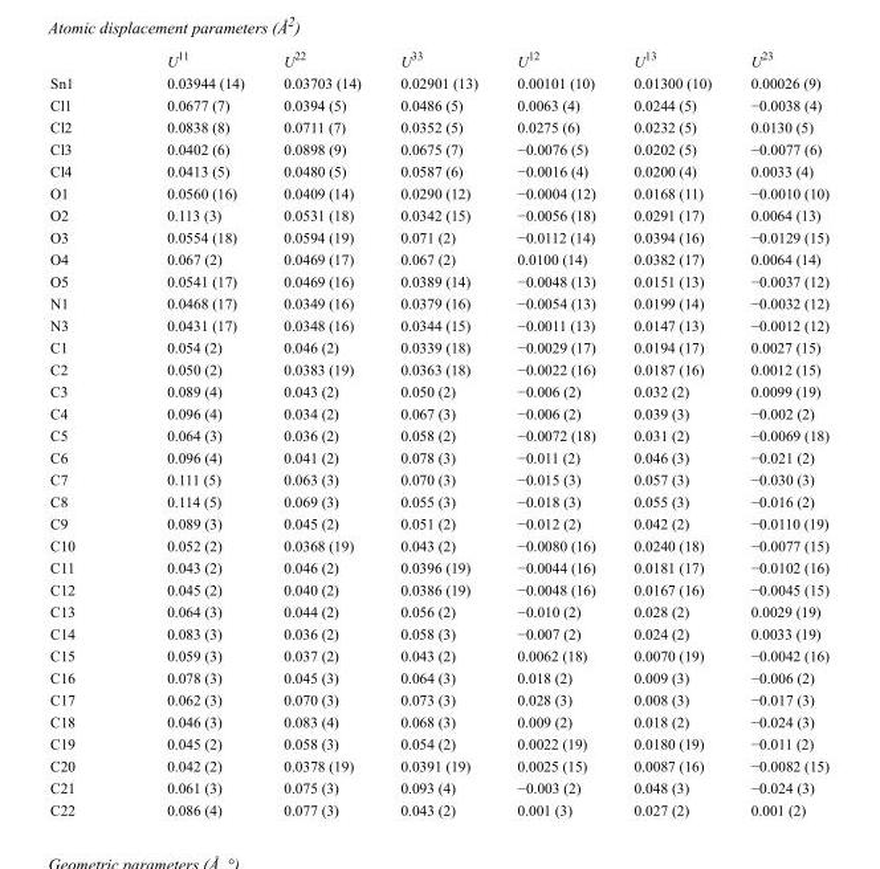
<table><thead><tr><td></td><td>U<sup>11</sup></td><td>U<sup>22</sup></td><td>U<sup>33</sup></td><td>U<sup>12</sup></td><td>U<sup>13</sup></td><td>U<sup>23</sup></td></tr></thead><tbody><tr><td>Sn1</td><td>0.03944 (14)</td><td>0.03703 (14)</td><td>0.02901 (13)</td><td>0.00101 (10)</td><td>0.01300 (10)</td><td>0.00026 (9)</td></tr><tr><td>Cl1</td><td>0.0677 (7)</td><td>0.0394 (5)</td><td>0.0486 (5)</td><td>0.0063 (4)</td><td>0.0244 (5)</td><td>−0.0038 (4)</td></tr><tr><td>Cl2</td><td>0.0838 (8)</td><td>0.0711 (7)</td><td>0.0352 (5)</td><td>0.0275 (6)</td><td>0.0232 (5)</td><td>0.0130 (5)</td></tr><tr><td>Cl3</td><td>0.0402 (6)</td><td>0.0898 (9)</td><td>0.0675 (7)</td><td>−0.0076 (5)</td><td>0.0202 (5)</td><td>−0.0077 (6)</td></tr><tr><td>Cl4</td><td>0.0413 (5)</td><td>0.0480 (5)</td><td>0.0587 (6)</td><td>−0.0016 (4)</td><td>0.0200 (4)</td><td>0.0033 (4)</td></tr><tr><td>O1</td><td>0.0560 (16)</td><td>0.0409 (14)</td><td>0.0290 (12)</td><td>−0.0004 (12)</td><td>0.0168 (11)</td><td>−0.0010 (10)</td></tr><tr><td>O2</td><td>0.113 (3)</td><td>0.0531 (18)</td><td>0.0342 (15)</td><td>−0.0056 (18)</td><td>0.0291 (17)</td><td>0.0064 (13)</td></tr><tr><td>O3</td><td>0.0554 (18)</td><td>0.0594 (19)</td><td>0.071 (2)</td><td>−0.0112 (14)</td><td>0.0394 (16)</td><td>−0.0129 (15)</td></tr><tr><td>O4</td><td>0.067 (2)</td><td>0.0469 (17)</td><td>0.067 (2)</td><td>0.0100 (14)</td><td>0.0382 (17)</td><td>0.0064 (14)</td></tr><tr><td>O5</td><td>0.0541 (17)</td><td>0.0469 (16)</td><td>0.0389 (14)</td><td>−0.0048 (13)</td><td>0.0151 (13)</td><td>−0.0037 (12)</td></tr><tr><td>N1</td><td>0.0468 (17)</td><td>0.0349 (16)</td><td>0.0379 (16)</td><td>−0.0054 (13)</td><td>0.0199 (14)</td><td>−0.0032 (12)</td></tr><tr><td>N3</td><td>0.0431 (17)</td><td>0.0348 (16)</td><td>0.0344 (15)</td><td>−0.0011 (13)</td><td>0.0147 (13)</td><td>−0.0012 (12)</td></tr><tr><td>C1</td><td>0.054 (2)</td><td>0.046 (2)</td><td>0.0339 (18)</td><td>−0.0029 (17)</td><td>0.0194 (17)</td><td>0.0027 (15)</td></tr><tr><td>C2</td><td>0.050 (2)</td><td>0.0383 (19)</td><td>0.0363 (18)</td><td>−0.0022 (16)</td><td>0.0187 (16)</td><td>0.0012 (15)</td></tr><tr><td>C3</td><td>0.089 (4)</td><td>0.043 (2)</td><td>0.050 (2)</td><td>−0.006 (2)</td><td>0.032 (2)</td><td>0.0099 (19)</td></tr><tr><td>C4</td><td>0.096 (4)</td><td>0.034 (2)</td><td>0.067 (3)</td><td>−0.006 (2)</td><td>0.039 (3)</td><td>−0.002 (2)</td></tr><tr><td>C5</td><td>0.064 (3)</td><td>0.036 (2)</td><td>0.058 (2)</td><td>−0.0072 (18)</td><td>0.031 (2)</td><td>−0.0069 (18)</td></tr><tr><td>C6</td><td>0.096 (4)</td><td>0.041 (2)</td><td>0.078 (3)</td><td>−0.011 (2)</td><td>0.046 (3)</td><td>−0.021 (2)</td></tr><tr><td>C7</td><td>0.111 (5)</td><td>0.063 (3)</td><td>0.070 (3)</td><td>−0.015 (3)</td><td>0.057 (3)</td><td>−0.030 (3)</td></tr><tr><td>C8</td><td>0.114 (5)</td><td>0.069 (3)</td><td>0.055 (3)</td><td>−0.018 (3)</td><td>0.055 (3)</td><td>−0.016 (2)</td></tr><tr><td>C9</td><td>0.089 (3)</td><td>0.045 (2)</td><td>0.051 (2)</td><td>−0.012 (2)</td><td>0.042 (2)</td><td>−0.0110 (19)</td></tr><tr><td>C10</td><td>0.052 (2)</td><td>0.0368 (19)</td><td>0.043 (2)</td><td>−0.0080 (16)</td><td>0.0240 (18)</td><td>−0.0077 (15)</td></tr><tr><td>C11</td><td>0.043 (2)</td><td>0.046 (2)</td><td>0.0396 (19)</td><td>−0.0044 (16)</td><td>0.0181 (17)</td><td>−0.0102 (16)</td></tr><tr><td>C12</td><td>0.045 (2)</td><td>0.040 (2)</td><td>0.0386 (19)</td><td>−0.0048 (16)</td><td>0.0167 (16)</td><td>−0.0045 (15)</td></tr><tr><td>C13</td><td>0.064 (3)</td><td>0.044 (2)</td><td>0.056 (2)</td><td>−0.010 (2)</td><td>0.028 (2)</td><td>0.0029 (19)</td></tr><tr><td>C14</td><td>0.083 (3)</td><td>0.036 (2)</td><td>0.058 (3)</td><td>−0.007 (2)</td><td>0.024 (2)</td><td>0.0033 (19)</td></tr><tr><td>C15</td><td>0.059 (3)</td><td>0.037 (2)</td><td>0.043 (2)</td><td>0.0062 (18)</td><td>0.0070 (19)</td><td>−0.0042 (16)</td></tr><tr><td>C16</td><td>0.078 (3)</td><td>0.045 (3)</td><td>0.064 (3)</td><td>0.018 (2)</td><td>0.009 (3)</td><td>−0.006 (2)</td></tr><tr><td>C17</td><td>0.062 (3)</td><td>0.070 (3)</td><td>0.073 (3)</td><td>0.028 (3)</td><td>0.008 (3)</td><td>−0.017 (3)</td></tr><tr><td>C18</td><td>0.046 (3)</td><td>0.083 (4)</td><td>0.068 (3)</td><td>0.009 (2)</td><td>0.018 (2)</td><td>−0.024 (3)</td></tr><tr><td>C19</td><td>0.045 (2)</td><td>0.058 (3)</td><td>0.054 (2)</td><td>0.0022 (19)</td><td>0.0180 (19)</td><td>−0.011 (2)</td></tr><tr><td>C20</td><td>0.042 (2)</td><td>0.0378 (19)</td><td>0.0391 (19)</td><td>0.0025 (15)</td><td>0.0087 (16)</td><td>−0.0082 (15)</td></tr><tr><td>C21</td><td>0.061 (3)</td><td>0.075 (3)</td><td>0.093 (4)</td><td>−0.003 (2)</td><td>0.048 (3)</td><td>−0.024 (3)</td></tr><tr><td>C22</td><td>0.086 (4)</td><td>0.077 (3)</td><td>0.043 (2)</td><td>0.001 (3)</td><td>0.027 (2)</td><td>0.001 (2)</td></tr></tbody></table>